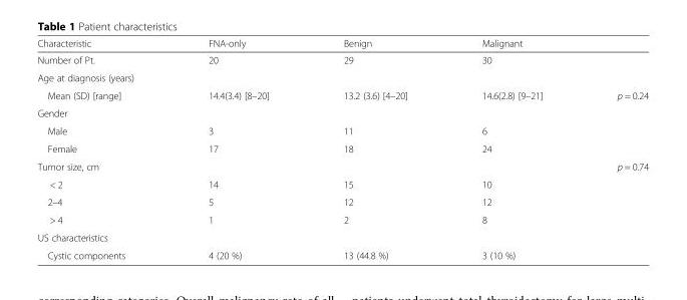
<table><thead><tr><td>Characteristic</td><td>FNA-only</td><td>Benign</td><td>Malignant</td><td></td></tr></thead><tbody><tr><td>Number of Pt.</td><td>20</td><td>29</td><td>30</td><td></td></tr><tr><td colspan="5">Age at diagnosis (years)</td></tr><tr><td>Mean (SD) [range]</td><td>14.4(3.4) [8–20]</td><td>13.2 (3.6) [4–20]</td><td>14.6(2.8) [9–21]</td><td>p = 0.24</td></tr><tr><td colspan="5">Gender</td></tr><tr><td>Male</td><td>3</td><td>11</td><td>6</td><td></td></tr><tr><td>Female</td><td>17</td><td>18</td><td>24</td><td></td></tr><tr><td>Tumor size, cm</td><td></td><td></td><td></td><td>p = 0.74</td></tr><tr><td>&lt; 2</td><td>14</td><td>15</td><td>10</td><td></td></tr><tr><td>2–4</td><td>5</td><td>12</td><td>12</td><td></td></tr><tr><td>&gt; 4</td><td>1</td><td>2</td><td>8</td><td></td></tr><tr><td colspan="5">US characteristics</td></tr><tr><td>Cystic components</td><td>4 (20 %)</td><td>13 (44.8 %)</td><td>3 (10 %)</td><td></td></tr></tbody></table>